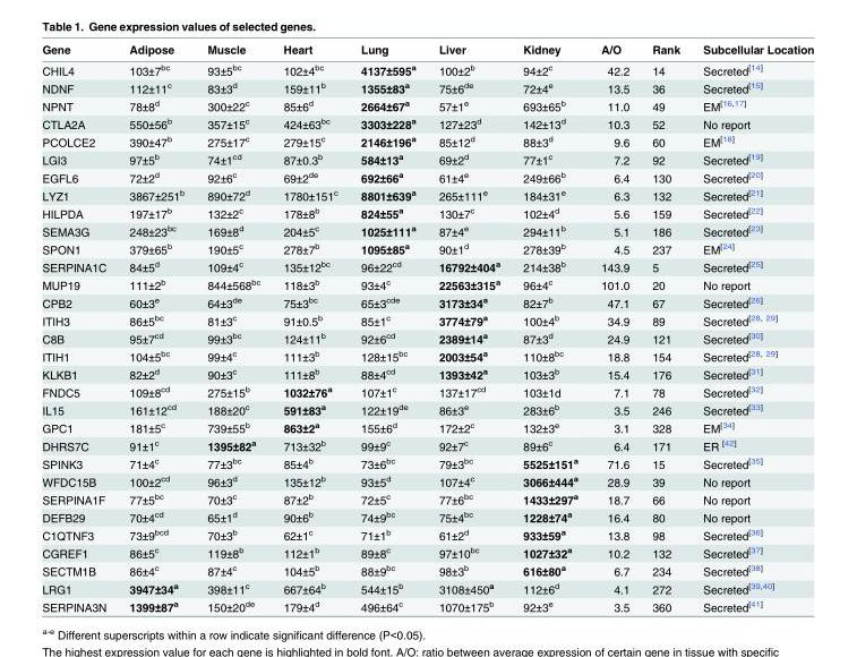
<table><thead><tr><td>Gene</td><td>Adipose</td><td>Muscle</td><td>Heart</td><td>Lung</td><td>Liver</td><td>Kidney</td><td>A/O</td><td>Rank</td><td>Subcellular Location</td></tr></thead><tbody><tr><td>CHIL4</td><td>103±7<sup>bc</sup></td><td>93±5<sup>bc</sup></td><td>102±4<sup>bc</sup></td><td>4137±595<sup>a</sup></td><td>100±2<sup>b</sup></td><td>94±2<sup>c</sup></td><td>42.2</td><td>14</td><td>Secreted<sup>[14]</sup></td></tr><tr><td>NDNF</td><td>112±11<sup>c</sup></td><td>83±3<sup>d</sup></td><td>159±11<sup>b</sup></td><td>1355±83<sup>a</sup></td><td>75±6<sup>de</sup></td><td>72±4<sup>e</sup></td><td>13.5</td><td>36</td><td>Secreted<sup>[15]</sup></td></tr><tr><td>NPNT</td><td>78±8<sup>d</sup></td><td>300±22<sup>c</sup></td><td>85±6<sup>d</sup></td><td>2664±67<sup>a</sup></td><td>57±1<sup>e</sup></td><td>693±65<sup>b</sup></td><td>11.0</td><td>49</td><td>EM<sup>[16,17]</sup></td></tr><tr><td>CTLA2A</td><td>550±56<sup>b</sup></td><td>357±15<sup>c</sup></td><td>424±63<sup>bc</sup></td><td>3303±228<sup>a</sup></td><td>127±23<sup>d</sup></td><td>142±13<sup>d</sup></td><td>10.3</td><td>52</td><td>No report</td></tr><tr><td>PCOLCE2</td><td>390±47<sup>b</sup></td><td>275±17<sup>c</sup></td><td>279±15<sup>c</sup></td><td>2146±196<sup>a</sup></td><td>85±12<sup>d</sup></td><td>88±3<sup>d</sup></td><td>9.6</td><td>60</td><td>EM<sup>[18]</sup></td></tr><tr><td>LGI3</td><td>97±5<sup>b</sup></td><td>74±1<sup>cd</sup></td><td>87±0.3<sup>b</sup></td><td>584±13<sup>a</sup></td><td>69±2<sup>d</sup></td><td>77±1<sup>c</sup></td><td>7.2</td><td>92</td><td>Secreted<sup>[19]</sup></td></tr><tr><td>EGFL6</td><td>72±2<sup>d</sup></td><td>92±6<sup>c</sup></td><td>69±2<sup>de</sup></td><td>692±66<sup>a</sup></td><td>61±4<sup>e</sup></td><td>249±66<sup>b</sup></td><td>6.4</td><td>130</td><td>Secreted<sup>[20]</sup></td></tr><tr><td>LYZ1</td><td>3867±251<sup>b</sup></td><td>890±72<sup>d</sup></td><td>1780±151<sup>c</sup></td><td>8801±639<sup>a</sup></td><td>265±111<sup>e</sup></td><td>184±31<sup>e</sup></td><td>6.3</td><td>132</td><td>Secreted<sup>[21]</sup></td></tr><tr><td>HILPDA</td><td>197±17<sup>b</sup></td><td>132±2<sup>c</sup></td><td>178±8<sup>b</sup></td><td>824±55<sup>a</sup></td><td>130±7<sup>c</sup></td><td>102±4<sup>d</sup></td><td>5.6</td><td>159</td><td>Secreted<sup>[22]</sup></td></tr><tr><td>SEMA3G</td><td>248±23<sup>bc</sup></td><td>169±8<sup>d</sup></td><td>204±5<sup>c</sup></td><td>1025±111<sup>a</sup></td><td>87±4<sup>e</sup></td><td>294±11<sup>b</sup></td><td>5.1</td><td>186</td><td>Secreted<sup>[23]</sup></td></tr><tr><td>SPON1</td><td>379±65<sup>b</sup></td><td>190±5<sup>c</sup></td><td>278±7<sup>b</sup></td><td>1095±85<sup>a</sup></td><td>90±1<sup>d</sup></td><td>278±39<sup>b</sup></td><td>4.5</td><td>237</td><td>EM<sup>[24]</sup></td></tr><tr><td>SERPINA1C</td><td>84±5<sup>d</sup></td><td>109±4<sup>c</sup></td><td>135±12<sup>bc</sup></td><td>96±22<sup>cd</sup></td><td>16792±404<sup>a</sup></td><td>214±38<sup>b</sup></td><td>143.9</td><td>5</td><td>Secreted<sup>[25]</sup></td></tr><tr><td>MUP19</td><td>111±2<sup>b</sup></td><td>844±568<sup>bc</sup></td><td>118±3<sup>b</sup></td><td>93±4<sup>c</sup></td><td>22563±315<sup>a</sup></td><td>96±4<sup>c</sup></td><td>101.0</td><td>20</td><td>No report</td></tr><tr><td>CPB2</td><td>60±3<sup>e</sup></td><td>64±3<sup>de</sup></td><td>75±3<sup>bc</sup></td><td>65±3<sup>cde</sup></td><td>3173±34<sup>a</sup></td><td>82±7<sup>b</sup></td><td>47.1</td><td>67</td><td>Secreted<sup>[26]</sup></td></tr><tr><td>ITIH3</td><td>86±5<sup>bc</sup></td><td>81±3<sup>c</sup></td><td>91±0.5<sup>b</sup></td><td>85±1<sup>c</sup></td><td>3774±79<sup>a</sup></td><td>100±4<sup>b</sup></td><td>34.9</td><td>89</td><td>Secreted<sup>[28, 29]</sup></td></tr><tr><td>C8B</td><td>95±7<sup>cd</sup></td><td>99±3<sup>bc</sup></td><td>124±11<sup>b</sup></td><td>92±6<sup>cd</sup></td><td>2389±14<sup>a</sup></td><td>87±3<sup>d</sup></td><td>24.9</td><td>121</td><td>Secreted<sup>[30]</sup></td></tr><tr><td>ITIH1</td><td>104±5<sup>bc</sup></td><td>99±4<sup>c</sup></td><td>111±3<sup>b</sup></td><td>128±15<sup>bc</sup></td><td>2003±54<sup>a</sup></td><td>110±8<sup>bc</sup></td><td>18.8</td><td>154</td><td>Secreted<sup>[28, 29]</sup></td></tr><tr><td>KLKB1</td><td>82±2<sup>d</sup></td><td>90±3<sup>c</sup></td><td>111±8<sup>b</sup></td><td>88±4<sup>cd</sup></td><td>1393±42<sup>a</sup></td><td>103±3<sup>b</sup></td><td>15.4</td><td>176</td><td>Secreted<sup>[31]</sup></td></tr><tr><td>FNDC5</td><td>109±8<sup>cd</sup></td><td>275±15<sup>b</sup></td><td>1032±76<sup>a</sup></td><td>107±1<sup>c</sup></td><td>137±17<sup>cd</sup></td><td>103±1d</td><td>7.1</td><td>78</td><td>Secreted<sup>[32]</sup></td></tr><tr><td>IL15</td><td>161±12<sup>cd</sup></td><td>188±20<sup>c</sup></td><td>591±83<sup>a</sup></td><td>122±19<sup>de</sup></td><td>86±3<sup>e</sup></td><td>283±6<sup>b</sup></td><td>3.5</td><td>246</td><td>Secreted<sup>[33]</sup></td></tr><tr><td>GPC1</td><td>181±5<sup>c</sup></td><td>739±55<sup>b</sup></td><td>863±2<sup>a</sup></td><td>155±6<sup>d</sup></td><td>172±2<sup>c</sup></td><td>132±3<sup>e</sup></td><td>3.1</td><td>328</td><td>EM<sup>[34]</sup></td></tr><tr><td>DHRS7C</td><td>91±1<sup>c</sup></td><td>1395±82<sup>a</sup></td><td>713±32<sup>b</sup></td><td>99±9<sup>c</sup></td><td>92±7<sup>c</sup></td><td>89±6<sup>c</sup></td><td>6.4</td><td>171</td><td>ER <sup>[42]</sup></td></tr><tr><td>SPINK3</td><td>71±4<sup>c</sup></td><td>77±3<sup>bc</sup></td><td>85±4<sup>b</sup></td><td>73±6<sup>bc</sup></td><td>79±3<sup>bc</sup></td><td>5525±151<sup>a</sup></td><td>71.6</td><td>15</td><td>Secreted<sup>[35]</sup></td></tr><tr><td>WFDC15B</td><td>100±2<sup>cd</sup></td><td>96±3<sup>d</sup></td><td>135±12<sup>b</sup></td><td>93±5<sup>d</sup></td><td>107±4<sup>c</sup></td><td>3066±444<sup>a</sup></td><td>28.9</td><td>39</td><td>No report</td></tr><tr><td>SERPINA1F</td><td>77±5<sup>bc</sup></td><td>70±3<sup>c</sup></td><td>87±2<sup>b</sup></td><td>72±5<sup>c</sup></td><td>77±6<sup>bc</sup></td><td>1433±297<sup>a</sup></td><td>18.7</td><td>66</td><td>No report</td></tr><tr><td>DEFB29</td><td>70±4<sup>cd</sup></td><td>65±1<sup>d</sup></td><td>90±6<sup>b</sup></td><td>74±9<sup>bc</sup></td><td>75±4<sup>bc</sup></td><td>1228±74<sup>a</sup></td><td>16.4</td><td>80</td><td>No report</td></tr><tr><td>C1QTNF3</td><td>73±9<sup>bcd</sup></td><td>70±3<sup>b</sup></td><td>62±1<sup>c</sup></td><td>71±1<sup>b</sup></td><td>61±2<sup>d</sup></td><td>933±59<sup>a</sup></td><td>13.8</td><td>98</td><td>Secreted<sup>[36]</sup></td></tr><tr><td>CGREF1</td><td>86±5<sup>c</sup></td><td>119±8<sup>b</sup></td><td>112±1<sup>b</sup></td><td>89±8<sup>c</sup></td><td>97±10<sup>bc</sup></td><td>1027±32<sup>a</sup></td><td>10.2</td><td>132</td><td>Secreted<sup>[37]</sup></td></tr><tr><td>SECTM1B</td><td>86±4<sup>c</sup></td><td>87±4<sup>c</sup></td><td>104±5<sup>b</sup></td><td>88±9<sup>bc</sup></td><td>98±3<sup>b</sup></td><td>616±80<sup>a</sup></td><td>6.7</td><td>234</td><td>Secreted<sup>[38]</sup></td></tr><tr><td>LRG1</td><td>3947±34<sup>a</sup></td><td>398±11<sup>c</sup></td><td>667±64<sup>b</sup></td><td>544±15<sup>b</sup></td><td>3108±450<sup>a</sup></td><td>112±6<sup>d</sup></td><td>4.1</td><td>272</td><td>Secreted<sup>[39,40]</sup></td></tr><tr><td>SERPINA3N</td><td>1399±87<sup>a</sup></td><td>150±20<sup>de</sup></td><td>179±4<sup>d</sup></td><td>496±64<sup>c</sup></td><td>1070±175<sup>b</sup></td><td>92±3<sup>e</sup></td><td>3.5</td><td>360</td><td>Secreted<sup>[41]</sup></td></tr></tbody></table>